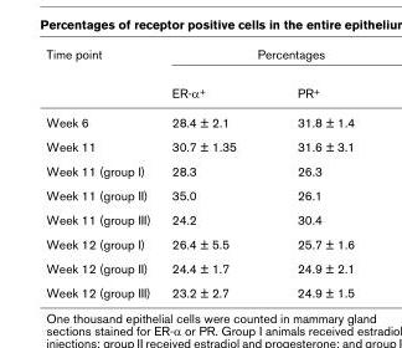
<table><thead><tr><td rowspan="2">Time point</td><td colspan="2">Percentages</td></tr><tr><td>ER-α+</td><td>PR+</td></tr></thead><tbody><tr><td>Week 6</td><td>28.4 ± 2.1</td><td>31.8 ± 1.4</td></tr><tr><td>Week 11</td><td>30.7 ± 1.35</td><td>31.6 ± 3.1</td></tr><tr><td>Week 11 (group I)</td><td>28.3</td><td>26.3</td></tr><tr><td>Week 11 (group II)</td><td>35.0</td><td>26.1</td></tr><tr><td>Week 11 (group III)</td><td>24.2</td><td>30.4</td></tr><tr><td>Week 12 (group I)</td><td>26.4 ± 5.5</td><td>25.7 ± 1.6</td></tr><tr><td>Week 12 (group II)</td><td>24.4 ± 1.7</td><td>24.9 ± 2.1</td></tr><tr><td>Week 12 (group III)</td><td>23.2 ± 2.7</td><td>24.9 ± 1.5</td></tr></tbody></table>